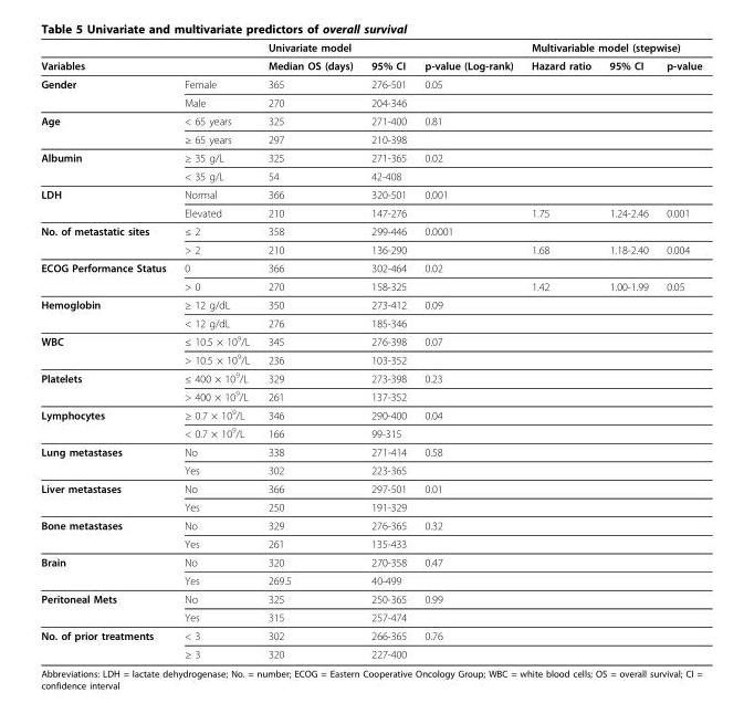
<table><thead><tr><td></td><td></td><td colspan="3">Univariate model</td><td colspan="3">Multivariable model (stepwise)</td></tr><tr><td colspan="2">Variables</td><td>Median OS (days)</td><td>95% CI</td><td>p-value (Log-rank)</td><td>Hazard ratio</td><td>95% CI</td><td>p-value</td></tr></thead><tbody><tr><td rowspan="2">Gender</td><td>Female</td><td>365</td><td>276-501</td><td>0.05</td><td></td><td></td><td></td></tr><tr><td>Male</td><td>270</td><td>204-346</td><td></td><td></td><td></td><td></td></tr><tr><td rowspan="2">Age</td><td>&lt; 65 years</td><td>325</td><td>271-400</td><td>0.81</td><td></td><td></td><td></td></tr><tr><td>≥ 65 years</td><td>297</td><td>210-398</td><td></td><td></td><td></td><td></td></tr><tr><td rowspan="2">Albumin</td><td>≥ 35 g/L</td><td>325</td><td>271-365</td><td>0.02</td><td></td><td></td><td></td></tr><tr><td>&lt; 35 g/L</td><td>54</td><td>42-408</td><td></td><td></td><td></td><td></td></tr><tr><td rowspan="2">LDH</td><td>Normal</td><td>366</td><td>320-501</td><td>0.001</td><td></td><td></td><td></td></tr><tr><td>Elevated</td><td>210</td><td>147-276</td><td></td><td>1.75</td><td>1.24-2.46</td><td>0.001</td></tr><tr><td rowspan="2">No. of metastatic sites</td><td>≤ 2</td><td>358</td><td>299-446</td><td>0.0001</td><td></td><td></td><td></td></tr><tr><td>&gt; 2</td><td>210</td><td>136-290</td><td></td><td>1.68</td><td>1.18-2.40</td><td>0.004</td></tr><tr><td rowspan="2">ECOG Performance Status</td><td>0</td><td>366</td><td>302-464</td><td>0.02</td><td></td><td></td><td></td></tr><tr><td>&gt; 0</td><td>270</td><td>158-325</td><td></td><td>1.42</td><td>1.00-1.99</td><td>0.05</td></tr><tr><td rowspan="2">Hemoglobin</td><td>≥ 12 g/dL</td><td>350</td><td>273-412</td><td>0.09</td><td></td><td></td><td></td></tr><tr><td>&lt; 12 g/dL</td><td>276</td><td>185-346</td><td></td><td></td><td></td><td></td></tr><tr><td rowspan="2">WBC</td><td>≤ 10.5 × 109/L</td><td>345</td><td>276-398</td><td>0.07</td><td></td><td></td><td></td></tr><tr><td>&gt; 10.5 × 109/L</td><td>236</td><td>103-352</td><td></td><td></td><td></td><td></td></tr><tr><td rowspan="2">Platelets</td><td>≤ 400 × 109/L</td><td>329</td><td>273-398</td><td>0.23</td><td></td><td></td><td></td></tr><tr><td>&gt; 400 × 109/L</td><td>261</td><td>137-352</td><td></td><td></td><td></td><td></td></tr><tr><td rowspan="2">Lymphocytes</td><td>≥ 0.7 × 109/L</td><td>346</td><td>290-400</td><td>0.04</td><td></td><td></td><td></td></tr><tr><td>&lt; 0.7 × 109/L</td><td>166</td><td>99-315</td><td></td><td></td><td></td><td></td></tr><tr><td rowspan="2">Lung metastases</td><td>No</td><td>338</td><td>271-414</td><td>0.58</td><td></td><td></td><td></td></tr><tr><td>Yes</td><td>302</td><td>223-365</td><td></td><td></td><td></td><td></td></tr><tr><td rowspan="2">Liver metastases</td><td>No</td><td>366</td><td>297-501</td><td>0.01</td><td></td><td></td><td></td></tr><tr><td>Yes</td><td>250</td><td>191-329</td><td></td><td></td><td></td><td></td></tr><tr><td rowspan="2">Bone metastases</td><td>No</td><td>329</td><td>276-365</td><td>0.32</td><td></td><td></td><td></td></tr><tr><td>Yes</td><td>261</td><td>135-433</td><td></td><td></td><td></td><td></td></tr><tr><td rowspan="2">Brain</td><td>No</td><td>320</td><td>270-358</td><td>0.47</td><td></td><td></td><td></td></tr><tr><td>Yes</td><td>269.5</td><td>40-499</td><td></td><td></td><td></td><td></td></tr><tr><td rowspan="2">Peritoneal Mets</td><td>No</td><td>325</td><td>250-365</td><td>0.99</td><td></td><td></td><td></td></tr><tr><td>Yes</td><td>315</td><td>257-474</td><td></td><td></td><td></td><td></td></tr><tr><td rowspan="2">No. of prior treatments</td><td>&lt; 3</td><td>302</td><td>266-365</td><td>0.76</td><td></td><td></td><td></td></tr><tr><td>≥ 3</td><td>320</td><td>227-400</td><td></td><td></td><td></td><td></td></tr></tbody></table>